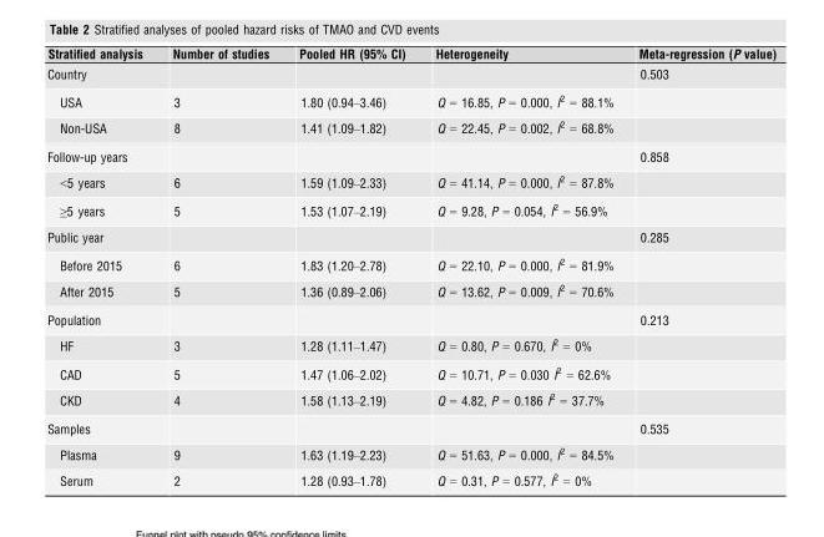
<table><thead><tr><td>Stratified analysis</td><td>Number of studies</td><td>Pooled HR (95% CI)</td><td>Heterogeneity</td><td>Meta-regression (P value)</td></tr></thead><tbody><tr><td>Country</td><td></td><td></td><td></td><td>0.503</td></tr><tr><td>USA</td><td>3</td><td>1.80 (0.94–3.46)</td><td>Q = 16.85, P = 0.000, I<sup>2</sup> = 88.1%</td><td></td></tr><tr><td>Non-USA</td><td>8</td><td>1.41 (1.09–1.82)</td><td>Q = 22.45, P = 0.002, I<sup>2</sup> = 68.8%</td><td></td></tr><tr><td>Follow-up years</td><td></td><td></td><td></td><td>0.858</td></tr><tr><td>&lt;5 years</td><td>6</td><td>1.59 (1.09–2.33)</td><td>Q = 41.14, P = 0.000, I<sup>2</sup> = 87.8%</td><td></td></tr><tr><td>≥5 years</td><td>5</td><td>1.53 (1.07–2.19)</td><td>Q = 9.28, P = 0.054, I<sup>2</sup> = 56.9%</td><td></td></tr><tr><td>Public year</td><td></td><td></td><td></td><td>0.285</td></tr><tr><td>Before 2015</td><td>6</td><td>1.83 (1.20–2.78)</td><td>Q = 22.10, P = 0.000, I<sup>2</sup> = 81.9%</td><td></td></tr><tr><td>After 2015</td><td>5</td><td>1.36 (0.89–2.06)</td><td>Q = 13.62, P = 0.009, I<sup>2</sup> = 70.6%</td><td></td></tr><tr><td>Population</td><td></td><td></td><td></td><td>0.213</td></tr><tr><td>HF</td><td>3</td><td>1.28 (1.11–1.47)</td><td>Q = 0.80, P = 0.670, I<sup>2</sup> = 0%</td><td></td></tr><tr><td>CAD</td><td>5</td><td>1.47 (1.06–2.02)</td><td>Q = 10.71, P = 0.030 I<sup>2</sup> = 62.6%</td><td></td></tr><tr><td>CKD</td><td>4</td><td>1.58 (1.13–2.19)</td><td>Q = 4.82, P = 0.186 I<sup>2</sup> = 37.7%</td><td></td></tr><tr><td>Samples</td><td></td><td></td><td></td><td>0.535</td></tr><tr><td>Plasma</td><td>9</td><td>1.63 (1.19–2.23)</td><td>Q = 51.63, P = 0.000, I<sup>2</sup> = 84.5%</td><td></td></tr><tr><td>Serum</td><td>2</td><td>1.28 (0.93–1.78)</td><td>Q = 0.31, P = 0.577, I<sup>2</sup> = 0%</td><td></td></tr></tbody></table>